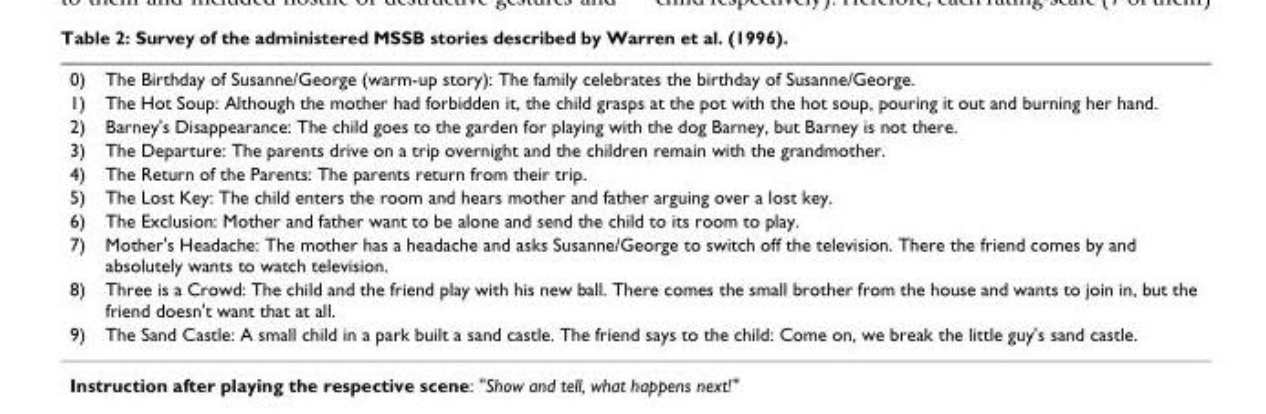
<table><tbody><tr><td>0)</td><td>The Birthday of Susanne/George (warm-up story): The family celebrates the birthday of Susanne/George.</td></tr><tr><td>1)</td><td>The Hot Soup: Although the mother had forbidden it, the child grasps at the pot with the hot soup, pouring it out and burning her hand.</td></tr><tr><td>2)</td><td>Barney&#x27;s Disappearance: The child goes to the garden for playing with the dog Barney, but Barney is not there.</td></tr><tr><td>3)</td><td>The Departure: The parents drive on a trip overnight and the children remain with the grandmother.</td></tr><tr><td>4)</td><td>The Return of the Parents: The parents return from their trip.</td></tr><tr><td>5)</td><td>The Lost Key: The child enters the room and hears mother and father arguing over a lost key.</td></tr><tr><td>6)</td><td>The Exclusion: Mother and father want to be alone and send the child to its room to play.</td></tr><tr><td>7)</td><td>Mother&#x27;s Headache: The mother has a headache and asks Susanne/George to switch off the television. There the friend comes by and absolutely wants to watch television.</td></tr><tr><td>8)</td><td>Three is a Crowd: The child and the friend play with his new ball. There comes the small brother from the house and wants to join in, but the friend doesn&#x27;t want that at all.</td></tr><tr><td>9)</td><td>The Sand Castle: A small child in a park built a sand castle. The friend says to the child: Come on, we break the little guy&#x27;s sand castle.</td></tr></tbody></table>